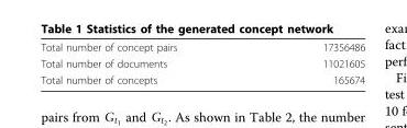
<table><tbody><tr><td>Total number of concept pairs</td><td>17356486</td></tr><tr><td>Total number of documents</td><td>11021605</td></tr><tr><td>Total number of concepts</td><td>165674</td></tr></tbody></table>